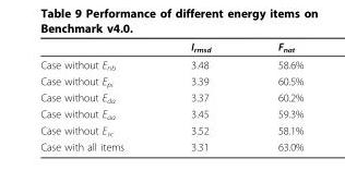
<table><thead><tr><td></td><td>I<sub>rmsd</sub></td><td>F<sub>nat</sub></td></tr></thead><tbody><tr><td>Case without E<sub>nb</sub></td><td>3.48</td><td>58.6%</td></tr><tr><td>Case without E<sub>pi</sub></td><td>3.39</td><td>60.5%</td></tr><tr><td>Case without E<sub>da</sub></td><td>3.37</td><td>60.2%</td></tr><tr><td>Case without E<sub>aa</sub></td><td>3.45</td><td>59.3%</td></tr><tr><td>Case without E<sub>sc</sub></td><td>3.52</td><td>58.1%</td></tr><tr><td>Case with all items</td><td>3.31</td><td>63.0%</td></tr></tbody></table>